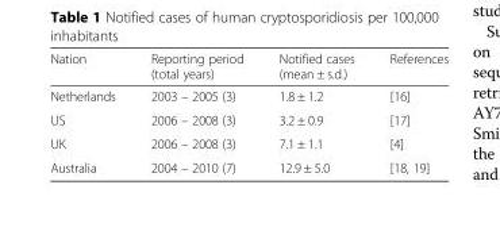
<table><thead><tr><td>Nation</td><td>Reporting period (total years)</td><td>Notified cases (mean ± s.d.)</td><td>References</td></tr></thead><tbody><tr><td>Netherlands</td><td>2003 – 2005 (3)</td><td>1.8 ± 1.2</td><td>[16]</td></tr><tr><td>US</td><td>2006 – 2008 (3)</td><td>3.2 ± 0.9</td><td>[17]</td></tr><tr><td>UK</td><td>2006 – 2008 (3)</td><td>7.1 ± 1.1</td><td>[4]</td></tr><tr><td>Australia</td><td>2004 – 2010 (7)</td><td>12.9 ± 5.0</td><td>[18, 19]</td></tr></tbody></table>